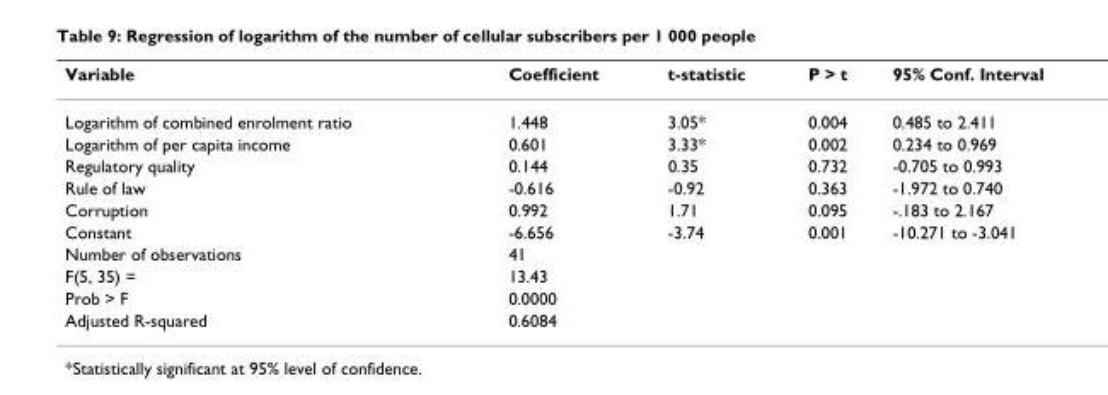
<table><thead><tr><td>Variable</td><td>Coefficient</td><td>t-statistic</td><td>P &gt; t</td><td>95% Conf. Interval</td></tr></thead><tbody><tr><td>Logarithm of combined enrolment ratio</td><td>1.448</td><td>3.05*</td><td>0.004</td><td>0.485 to 2.411</td></tr><tr><td>Logarithm of per capita income</td><td>0.601</td><td>3.33*</td><td>0.002</td><td>0.234 to 0.969</td></tr><tr><td>Regulatory quality</td><td>0.144</td><td>0.35</td><td>0.732</td><td>-0.705 to 0.993</td></tr><tr><td>Rule of law</td><td>-0.616</td><td>-0.92</td><td>0.363</td><td>-1.972 to 0.740</td></tr><tr><td>Corruption</td><td>0.992</td><td>1.71</td><td>0.095</td><td>-.183 to 2.167</td></tr><tr><td>Constant</td><td>-6.656</td><td>-3.74</td><td>0.001</td><td>-10.271 to -3.041</td></tr><tr><td>Number of observations</td><td colspan="4">41</td></tr><tr><td>F(5, 35) =</td><td colspan="4">13.43</td></tr><tr><td>Prob &gt; F</td><td colspan="4">0.0000</td></tr><tr><td>Adjusted R-squared</td><td colspan="4">0.6084</td></tr></tbody></table>